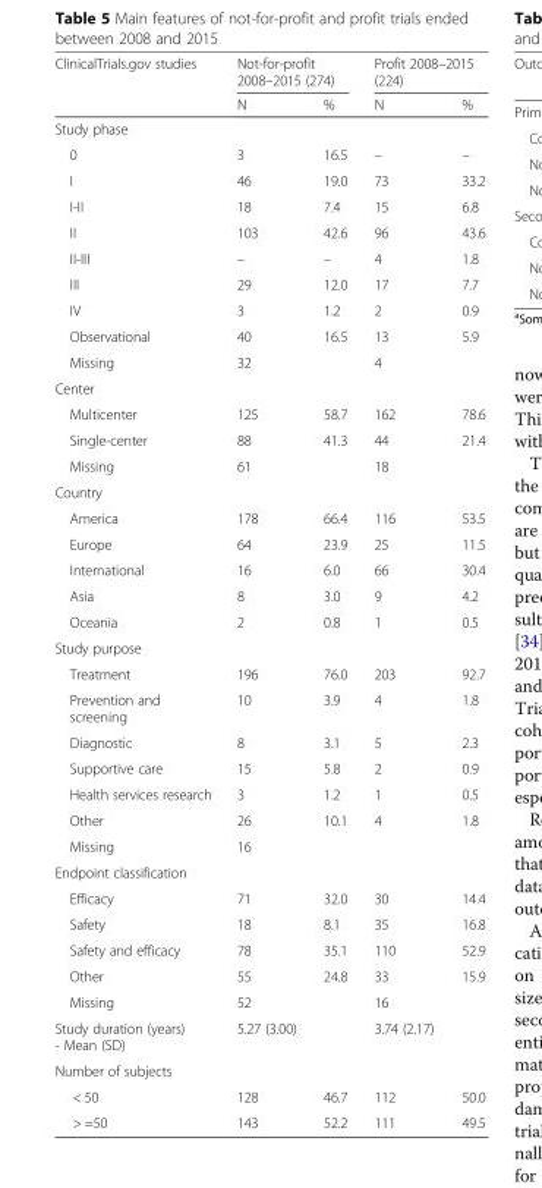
<table><thead><tr><td rowspan="2">ClinicalTrials.gov studies</td><td colspan="2">Not-for-profit 2008–2015 (274)</td><td colspan="2">Profit 2008–2015 (224)</td></tr><tr><td>N</td><td>%</td><td>N</td><td>%</td></tr></thead><tbody><tr><td colspan="5">Study phase</td></tr><tr><td>0</td><td>3</td><td>16.5</td><td>–</td><td>–</td></tr><tr><td>I</td><td>46</td><td>19.0</td><td>73</td><td>33.2</td></tr><tr><td>I-II</td><td>18</td><td>7.4</td><td>15</td><td>6.8</td></tr><tr><td>II</td><td>103</td><td>42.6</td><td>96</td><td>43.6</td></tr><tr><td>II-III</td><td>–</td><td>–</td><td>4</td><td>1.8</td></tr><tr><td>III</td><td>29</td><td>12.0</td><td>17</td><td>7.7</td></tr><tr><td>IV</td><td>3</td><td>1.2</td><td>2</td><td>0.9</td></tr><tr><td>Observational</td><td>40</td><td>16.5</td><td>13</td><td>5.9</td></tr><tr><td>Missing</td><td>32</td><td></td><td>4</td><td></td></tr><tr><td colspan="5">Center</td></tr><tr><td>Multicenter</td><td>125</td><td>58.7</td><td>162</td><td>78.6</td></tr><tr><td>Single-center</td><td>88</td><td>41.3</td><td>44</td><td>21.4</td></tr><tr><td>Missing</td><td>61</td><td></td><td>18</td><td></td></tr><tr><td colspan="5">Country</td></tr><tr><td>America</td><td>178</td><td>66.4</td><td>116</td><td>53.5</td></tr><tr><td>Europe</td><td>64</td><td>23.9</td><td>25</td><td>11.5</td></tr><tr><td>International</td><td>16</td><td>6.0</td><td>66</td><td>30.4</td></tr><tr><td>Asia</td><td>8</td><td>3.0</td><td>9</td><td>4.2</td></tr><tr><td>Oceania</td><td>2</td><td>0.8</td><td>1</td><td>0.5</td></tr><tr><td colspan="5">Study purpose</td></tr><tr><td>Treatment</td><td>196</td><td>76.0</td><td>203</td><td>92.7</td></tr><tr><td>Prevention and screening</td><td>10</td><td>3.9</td><td>4</td><td>1.8</td></tr><tr><td>Diagnostic</td><td>8</td><td>3.1</td><td>5</td><td>2.3</td></tr><tr><td>Supportive care</td><td>15</td><td>5.8</td><td>2</td><td>0.9</td></tr><tr><td>Health services research</td><td>3</td><td>1.2</td><td>1</td><td>0.5</td></tr><tr><td>Other</td><td>26</td><td>10.1</td><td>4</td><td>1.8</td></tr><tr><td>Missing</td><td>16</td><td></td><td></td><td></td></tr><tr><td colspan="5">Endpoint classification</td></tr><tr><td>Efficacy</td><td>71</td><td>32.0</td><td>30</td><td>14.4</td></tr><tr><td>Safety</td><td>18</td><td>8.1</td><td>35</td><td>16.8</td></tr><tr><td>Safety and efficacy</td><td>78</td><td>35.1</td><td>110</td><td>52.9</td></tr><tr><td>Other</td><td>55</td><td>24.8</td><td>33</td><td>15.9</td></tr><tr><td>Missing</td><td>52</td><td></td><td>16</td><td></td></tr><tr><td>Study duration (years) - Mean (SD)</td><td>5.27 (3.00)</td><td></td><td>3.74 (2.17)</td><td></td></tr><tr><td colspan="5">Number of subjects</td></tr><tr><td>&lt; 50</td><td>128</td><td>46.7</td><td>112</td><td>50.0</td></tr><tr><td>&gt; =50</td><td>143</td><td>52.2</td><td>111</td><td>49.5</td></tr></tbody></table>